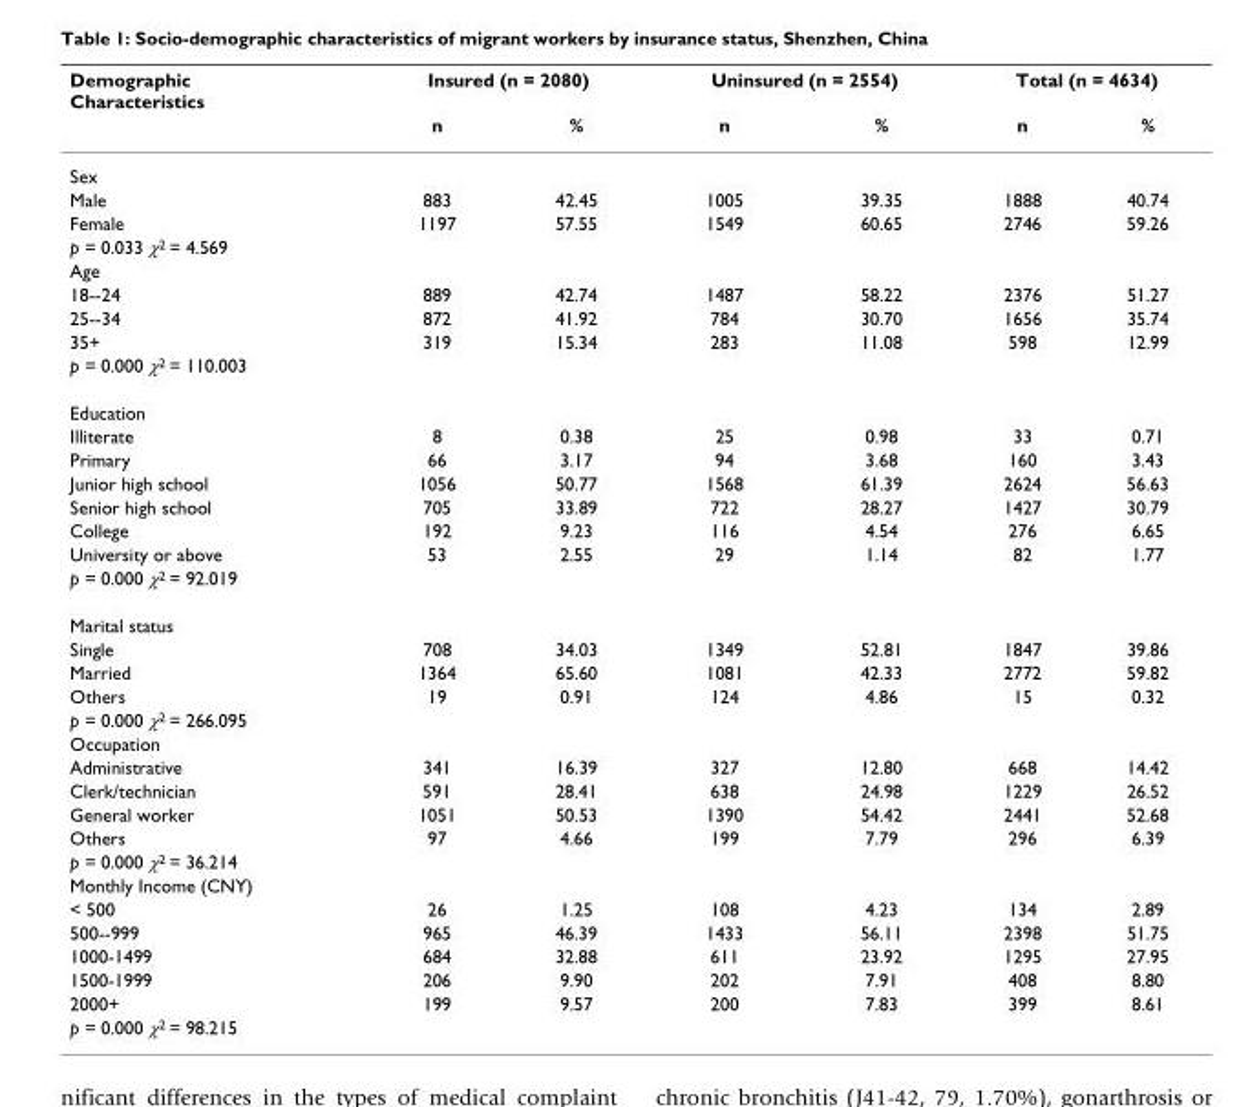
<table><thead><tr><td rowspan="2">Demographic Characteristics</td><td colspan="2">Insured (n = 2080)</td><td colspan="2">Uninsured (n = 2554)</td><td colspan="2">Total (n = 4634)</td></tr><tr><td>n</td><td>%</td><td>n</td><td>%</td><td>n</td><td>%</td></tr></thead><tbody><tr><td colspan="7">Sex</td></tr><tr><td>Male</td><td>883</td><td>42.45</td><td>1005</td><td>39.35</td><td>1888</td><td>40.74</td></tr><tr><td>Female</td><td>1197</td><td>57.55</td><td>1549</td><td>60.65</td><td>2746</td><td>59.26</td></tr><tr><td colspan="7">p = 0.033 χ<sup>2</sup> = 4.569</td></tr><tr><td colspan="7">Age</td></tr><tr><td>18--24</td><td>889</td><td>42.74</td><td>1487</td><td>58.22</td><td>2376</td><td>51.27</td></tr><tr><td>25--34</td><td>872</td><td>41.92</td><td>784</td><td>30.70</td><td>1656</td><td>35.74</td></tr><tr><td>35+</td><td>319</td><td>15.34</td><td>283</td><td>11.08</td><td>598</td><td>12.99</td></tr><tr><td colspan="7">p = 0.000 χ<sup>2</sup> = 110.003</td></tr><tr><td colspan="7">Education</td></tr><tr><td>Illiterate</td><td>8</td><td>0.38</td><td>25</td><td>0.98</td><td>33</td><td>0.71</td></tr><tr><td>Primary</td><td>66</td><td>3.17</td><td>94</td><td>3.68</td><td>160</td><td>3.43</td></tr><tr><td>Junior high school</td><td>1056</td><td>50.77</td><td>1568</td><td>61.39</td><td>2624</td><td>56.63</td></tr><tr><td>Senior high school</td><td>705</td><td>33.89</td><td>722</td><td>28.27</td><td>1427</td><td>30.79</td></tr><tr><td>College</td><td>192</td><td>9.23</td><td>116</td><td>4.54</td><td>276</td><td>6.65</td></tr><tr><td>University or above</td><td>53</td><td>2.55</td><td>29</td><td>1.14</td><td>82</td><td>1.77</td></tr><tr><td colspan="7">p = 0.000 χ<sup>2</sup> = 92.019</td></tr><tr><td colspan="7">Marital status</td></tr><tr><td>Single</td><td>708</td><td>34.03</td><td>1349</td><td>52.81</td><td>1847</td><td>39.86</td></tr><tr><td>Married</td><td>1364</td><td>65.60</td><td>1081</td><td>42.33</td><td>2772</td><td>59.82</td></tr><tr><td>Others</td><td>19</td><td>0.91</td><td>124</td><td>4.86</td><td>15</td><td>0.32</td></tr><tr><td colspan="7">p = 0.000 χ<sup>2</sup> = 266.095</td></tr><tr><td colspan="7">Occupation</td></tr><tr><td>Administrative</td><td>341</td><td>16.39</td><td>327</td><td>12.80</td><td>668</td><td>14.42</td></tr><tr><td>Clerk/technician</td><td>591</td><td>28.41</td><td>638</td><td>24.98</td><td>1229</td><td>26.52</td></tr><tr><td>General worker</td><td>1051</td><td>50.53</td><td>1390</td><td>54.42</td><td>2441</td><td>52.68</td></tr><tr><td>Others</td><td>97</td><td>4.66</td><td>199</td><td>7.79</td><td>296</td><td>6.39</td></tr><tr><td colspan="7">p = 0.000 χ<sup>2</sup> = 36.214</td></tr><tr><td colspan="7">Monthly Income (CNY)</td></tr><tr><td>&lt; 500</td><td>26</td><td>1.25</td><td>108</td><td>4.23</td><td>134</td><td>2.89</td></tr><tr><td>500--999</td><td>965</td><td>46.39</td><td>1433</td><td>56.11</td><td>2398</td><td>51.75</td></tr><tr><td>1000-1499</td><td>684</td><td>32.88</td><td>611</td><td>23.92</td><td>1295</td><td>27.95</td></tr><tr><td>1500-1999</td><td>206</td><td>9.90</td><td>202</td><td>7.91</td><td>408</td><td>8.80</td></tr><tr><td>2000+</td><td>199</td><td>9.57</td><td>200</td><td>7.83</td><td>399</td><td>8.61</td></tr><tr><td>p = 0.000 χ<sup>2</sup> = 98.215</td><td></td><td></td><td></td><td></td><td></td><td></td></tr></tbody></table>